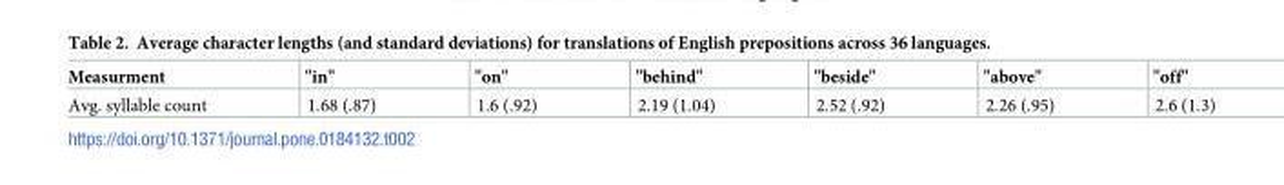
<table><thead><tr><td>Measurment</td><td>&quot;in&quot;</td><td>&quot;on&quot;</td><td>&quot;behind&quot;</td><td>&quot;beside&quot;</td><td>&quot;above&quot;</td><td>&quot;off&quot;</td></tr></thead><tbody><tr><td>Avg. syllable count</td><td>1.68 (.87)</td><td>1.6 (.92)</td><td>2.19 (1.04)</td><td>2.52 (.92)</td><td>2.26 (.95)</td><td>2.6 (1.3)</td></tr></tbody></table>